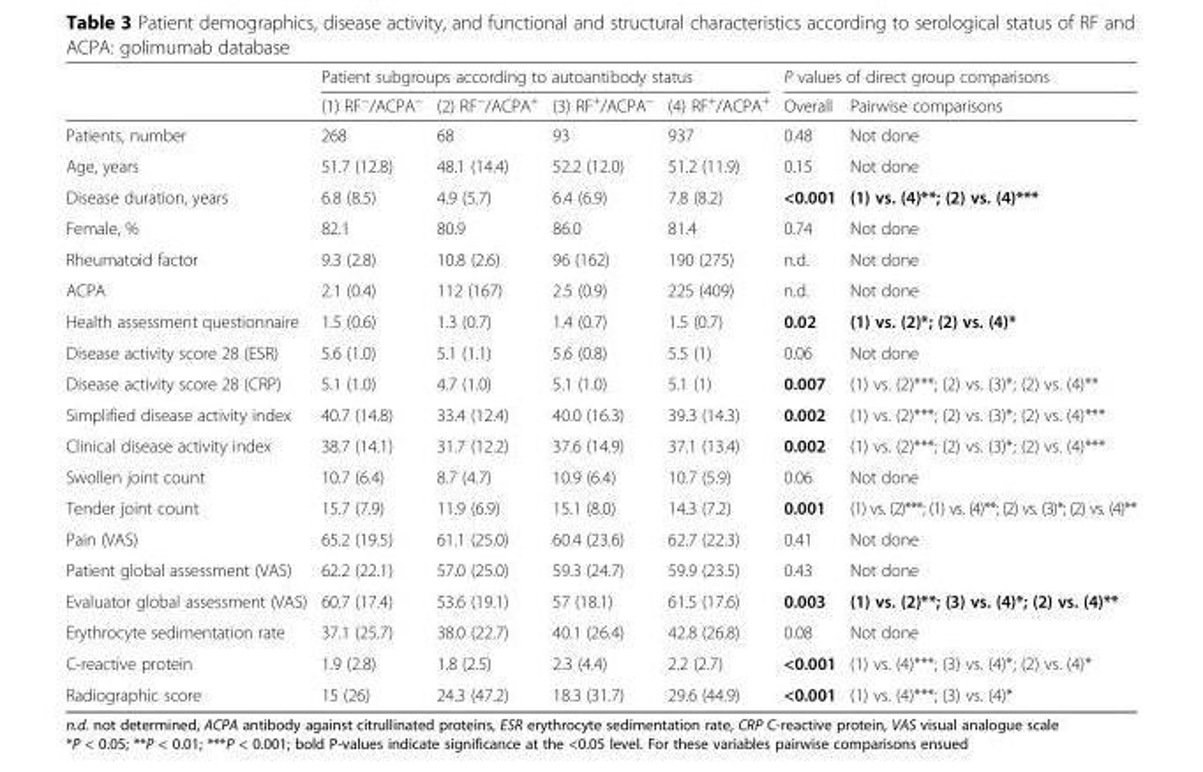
<table><thead><tr><td rowspan="2"></td><td colspan="4">Patient subgroups according to autoantibody status</td><td colspan="2">P values of direct group comparisons</td></tr><tr><td>(1) RF<sup>−</sup>/ACPA<sup>−</sup></td><td>(2) RF<sup>−</sup>/ACPA<sup>+</sup></td><td>(3) RF<sup>+</sup>/ACPA<sup>−</sup></td><td>(4) RF<sup>+</sup>/ACPA<sup>+</sup></td><td>Overall</td><td>Pairwise comparisons</td></tr></thead><tbody><tr><td>Patients, number</td><td>268</td><td>68</td><td>93</td><td>937</td><td>0.48</td><td>Not done</td></tr><tr><td>Age, years</td><td>51.7 (12.8)</td><td>48.1 (14.4)</td><td>52.2 (12.0)</td><td>51.2 (11.9)</td><td>0.15</td><td>Not done</td></tr><tr><td>Disease duration, years</td><td>6.8 (8.5)</td><td>4.9 (5.7)</td><td>6.4 (6.9)</td><td>7.8 (8.2)</td><td>&lt;0.001</td><td>(1) vs. (4)**; (2) vs. (4)***</td></tr><tr><td>Female, %</td><td>82.1</td><td>80.9</td><td>86.0</td><td>81.4</td><td>0.74</td><td>Not done</td></tr><tr><td>Rheumatoid factor</td><td>9.3 (2.8)</td><td>10.8 (2.6)</td><td>96 (162)</td><td>190 (275)</td><td>n.d.</td><td>Not done</td></tr><tr><td>ACPA</td><td>2.1 (0.4)</td><td>112 (167)</td><td>2.5 (0.9)</td><td>225 (409)</td><td>n.d.</td><td>Not done</td></tr><tr><td>Health assessment questionnaire</td><td>1.5 (0.6)</td><td>1.3 (0.7)</td><td>1.4 (0.7)</td><td>1.5 (0.7)</td><td>0.02</td><td>(1) vs. (2)*; (2) vs. (4)*</td></tr><tr><td>Disease activity score 28 (ESR)</td><td>5.6 (1.0)</td><td>5.1 (1.1)</td><td>5.6 (0.8)</td><td>5.5 (1)</td><td>0.06</td><td>Not done</td></tr><tr><td>Disease activity score 28 (CRP)</td><td>5.1 (1.0)</td><td>4.7 (1.0)</td><td>5.1 (1.0)</td><td>5.1 (1)</td><td>0.007</td><td>(1) vs. (2)***; (2) vs. (3)*; (2) vs. (4)**</td></tr><tr><td>Simplified disease activity index</td><td>40.7 (14.8)</td><td>33.4 (12.4)</td><td>40.0 (16.3)</td><td>39.3 (14.3)</td><td>0.002</td><td>(1) vs. (2)***; (2) vs. (3)*; (2) vs. (4)***</td></tr><tr><td>Clinical disease activity index</td><td>38.7 (14.1)</td><td>31.7 (12.2)</td><td>37.6 (14.9)</td><td>37.1 (13.4)</td><td>0.002</td><td>(1) vs. (2)***; (2) vs. (3)*; (2) vs. (4)***</td></tr><tr><td>Swollen joint count</td><td>10.7 (6.4)</td><td>8.7 (4.7)</td><td>10.9 (6.4)</td><td>10.7 (5.9)</td><td>0.06</td><td>Not done</td></tr><tr><td>Tender joint count</td><td>15.7 (7.9)</td><td>11.9 (6.9)</td><td>15.1 (8.0)</td><td>14.3 (7.2)</td><td>0.001</td><td>(1) vs. (2)***; (1) vs. (4)**; (2) vs. (3)*; (2) vs. (4)**</td></tr><tr><td>Pain (VAS)</td><td>65.2 (19.5)</td><td>61.1 (25.0)</td><td>60.4 (23.6)</td><td>62.7 (22.3)</td><td>0.41</td><td>Not done</td></tr><tr><td>Patient global assessment (VAS)</td><td>62.2 (22.1)</td><td>57.0 (25.0)</td><td>59.3 (24.7)</td><td>59.9 (23.5)</td><td>0.43</td><td>Not done</td></tr><tr><td>Evaluator global assessment (VAS)</td><td>60.7 (17.4)</td><td>53.6 (19.1)</td><td>57 (18.1)</td><td>61.5 (17.6)</td><td>0.003</td><td>(1) vs. (2)**; (3) vs. (4)*; (2) vs. (4)**</td></tr><tr><td>Erythrocyte sedimentation rate</td><td>37.1 (25.7)</td><td>38.0 (22.7)</td><td>40.1 (26.4)</td><td>42.8 (26.8)</td><td>0.08</td><td>Not done</td></tr><tr><td>C-reactive protein</td><td>1.9 (2.8)</td><td>1.8 (2.5)</td><td>2.3 (4.4)</td><td>2.2 (2.7)</td><td>&lt;0.001</td><td>(1) vs. (4)***; (3) vs. (4)*; (2) vs. (4)*</td></tr><tr><td>Radiographic score</td><td>15 (26)</td><td>24.3 (47.2)</td><td>18.3 (31.7)</td><td>29.6 (44.9)</td><td>&lt;0.001</td><td>(1) vs. (4)***; (3) vs. (4)*</td></tr></tbody></table>